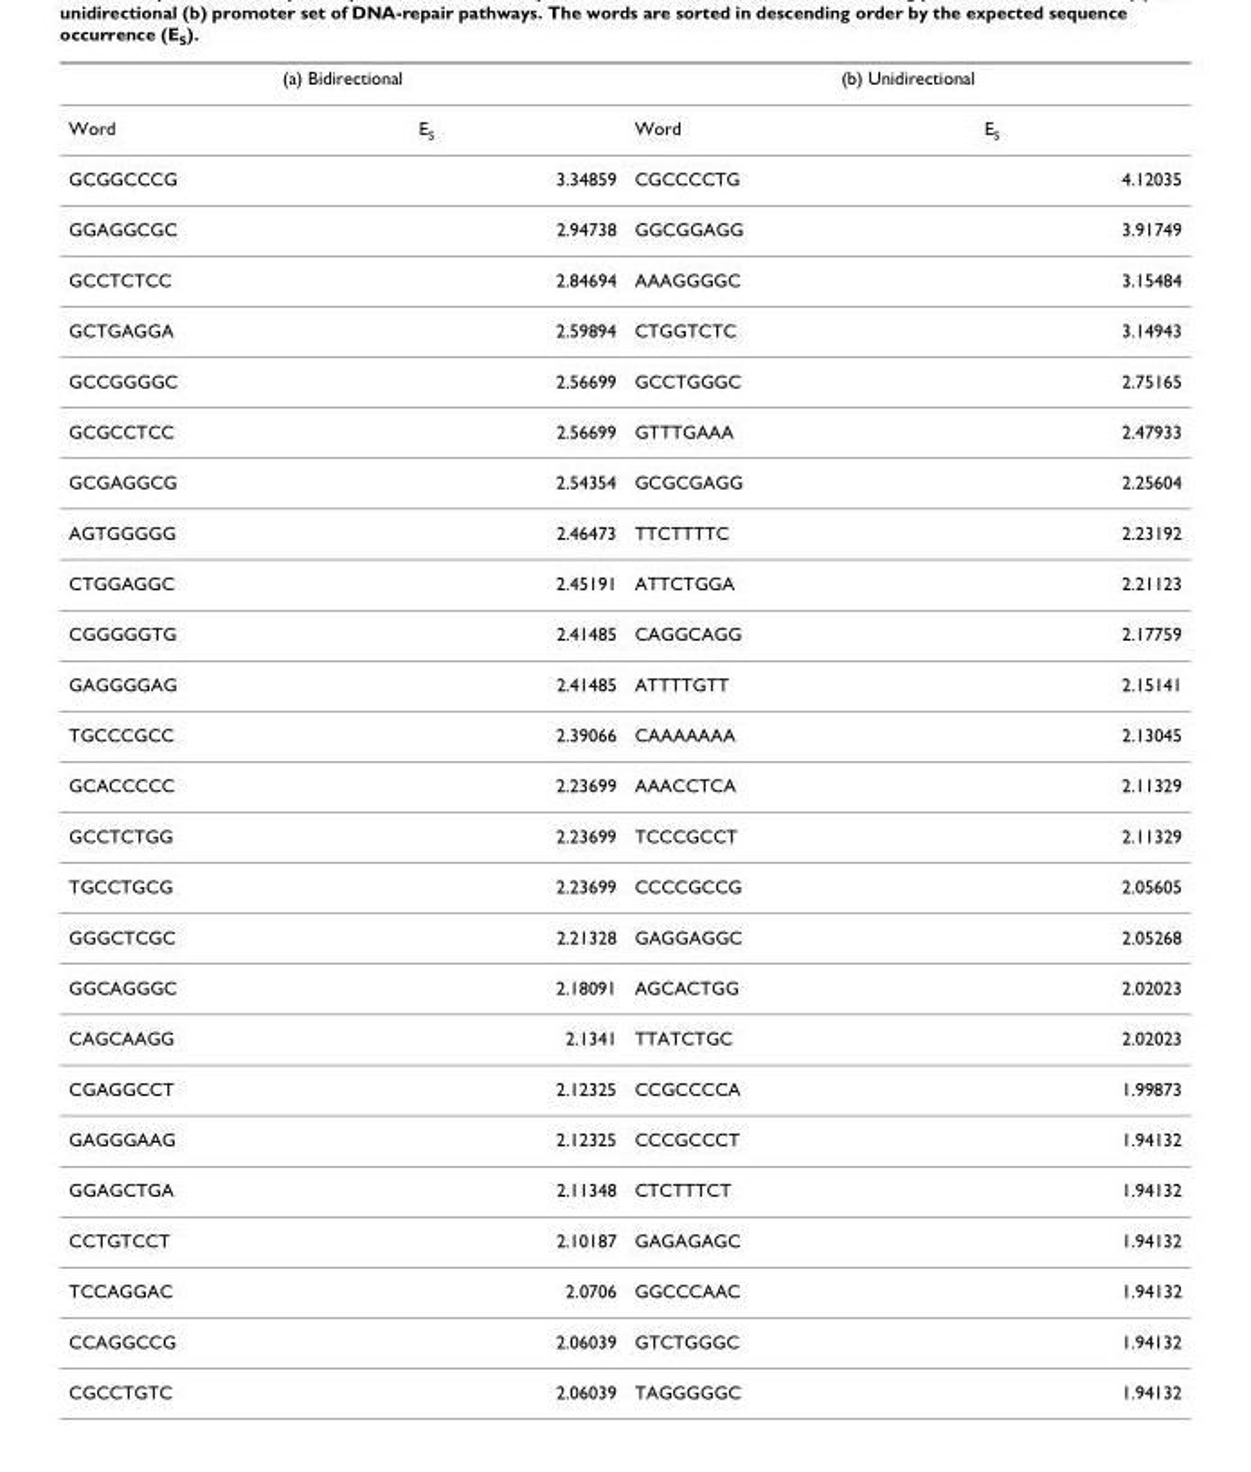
<table><thead><tr><td colspan="2">(a) Bidirectional</td><td colspan="2">(b) Unidirectional</td></tr><tr><td>Word</td><td>E<sub>S</sub></td><td>Word</td><td>E<sub>S</sub></td></tr></thead><tbody><tr><td>GCGGCCCG</td><td>3.34859</td><td>CGCCCCTG</td><td>4.12035</td></tr><tr><td>GGAGGCGC</td><td>2.94738</td><td>GGCGGAGG</td><td>3.91749</td></tr><tr><td>GCCTCTCC</td><td>2.84694</td><td>AAAGGGGC</td><td>3.15484</td></tr><tr><td>GCTGAGGA</td><td>2.59894</td><td>CTGGTCTC</td><td>3.14943</td></tr><tr><td>GCCGGGGC</td><td>2.56699</td><td>GCCTGGGC</td><td>2.75165</td></tr><tr><td>GCGCCTCC</td><td>2.56699</td><td>GTTTGAAA</td><td>2.47933</td></tr><tr><td>GCGAGGCG</td><td>2.54354</td><td>GCGCGAGG</td><td>2.25604</td></tr><tr><td>AGTGGGGG</td><td>2.46473</td><td>TTCTTTTC</td><td>2.23192</td></tr><tr><td>CTGGAGGC</td><td>2.45191</td><td>ATTCTGGA</td><td>2.21123</td></tr><tr><td>CGGGGGTG</td><td>2.41485</td><td>CAGGCAGG</td><td>2.17759</td></tr><tr><td>GAGGGGAG</td><td>2.41485</td><td>ATTTTGTT</td><td>2.15141</td></tr><tr><td>TGCCCGCC</td><td>2.39066</td><td>CAAAAAAA</td><td>2.13045</td></tr><tr><td>GCACCCCC</td><td>2.23699</td><td>AAACCTCA</td><td>2.11329</td></tr><tr><td>GCCTCTGG</td><td>2.23699</td><td>TCCCGCCT</td><td>2.11329</td></tr><tr><td>TGCCTGCG</td><td>2.23699</td><td>CCCCGCCG</td><td>2.05605</td></tr><tr><td>GGGCTCGC</td><td>2.21328</td><td>GAGGAGGC</td><td>2.05268</td></tr><tr><td>GGCAGGGC</td><td>2.18091</td><td>AGCACTGG</td><td>2.02023</td></tr><tr><td>CAGCAAGG</td><td>2.1341</td><td>TTATCTGC</td><td>2.02023</td></tr><tr><td>CGAGGCCT</td><td>2.12325</td><td>CCGCCCCA</td><td>1.99873</td></tr><tr><td>GAGGGAAG</td><td>2.12325</td><td>CCCGCCCT</td><td>1.94132</td></tr><tr><td>GGAGCTGA</td><td>2.11348</td><td>CTCTTTCT</td><td>1.94132</td></tr><tr><td>CCTGTCCT</td><td>2.10187</td><td>GAGAGAGC</td><td>1.94132</td></tr><tr><td>TCCAGGAC</td><td>2.0706</td><td>GGCCCAAC</td><td>1.94132</td></tr><tr><td>CCAGGCCG</td><td>2.06039</td><td>GTCTGGGC</td><td>1.94132</td></tr><tr><td>CGCCTGTC</td><td>2.06039</td><td>TAGGGGGC</td><td>1.94132</td></tr></tbody></table>